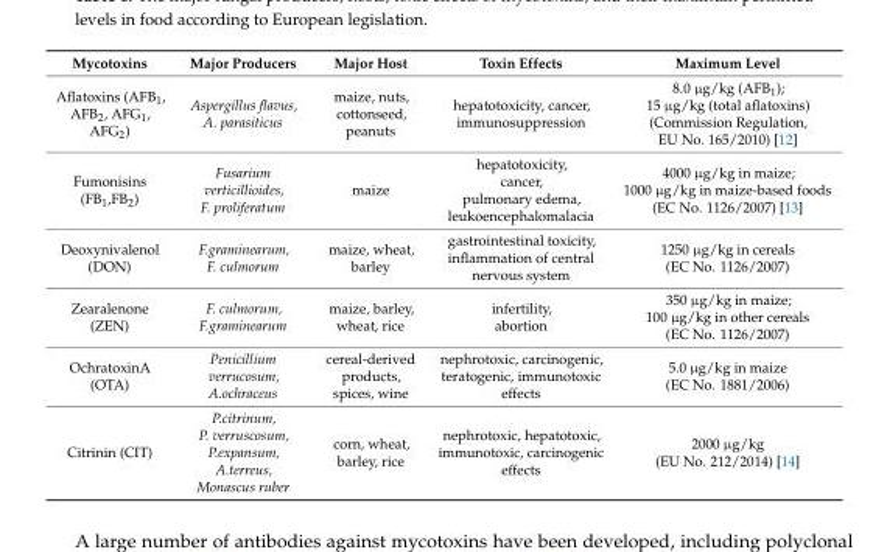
<table><thead><tr><td>Mycotoxins</td><td>Major Producers</td><td>Major Host</td><td>Toxin Effects</td><td>Maximum Level</td></tr></thead><tbody><tr><td>Aflatoxins (AFB<sub>1</sub>, AFB<sub>2</sub>, AFG<sub>1</sub>, AFG<sub>2</sub>)</td><td>Aspergillus flavus, A. parasiticus</td><td>maize, nuts, cottonseed, peanuts</td><td>hepatotoxicity, cancer, immunosuppression</td><td>8.0 µg/kg (AFB<sub>1</sub>); 15 µg/kg (total aflatoxins) (Commission Regulation, EU No. 165/2010) [12]</td></tr><tr><td>Fumonisins (FB<sub>1</sub>,FB<sub>2</sub>)</td><td>Fusarium verticillioides, F. proliferatum</td><td>maize</td><td>hepatotoxicity, cancer, pulmonary edema, leukoencephalomalacia</td><td>4000 µg/kg in maize; 1000 µg/kg in maize-based foods (EC No. 1126/2007) [13]</td></tr><tr><td>Deoxynivalenol (DON)</td><td>F.graminearum, F. culmorum</td><td>maize, wheat, barley</td><td>gastrointestinal toxicity, inflammation of central nervous system</td><td>1250 µg/kg in cereals (EC No. 1126/2007)</td></tr><tr><td>Zearalenone (ZEN)</td><td>F. culmorum, F.graminearum</td><td>maize, barley, wheat, rice</td><td>infertility, abortion</td><td>350 µg/kg in maize; 100 µg/kg in other cereals (EC No. 1126/2007)</td></tr><tr><td>OchratoxinA (OTA)</td><td>Penicillium verrucosum, A.ochraceus</td><td>cereal-derived products, spices, wine</td><td>nephrotoxic, carcinogenic, teratogenic, immunotoxic effects</td><td>5.0 µg/kg in maize (EC No. 1881/2006)</td></tr><tr><td>Citrinin (CIT)</td><td>P.citrinum, P. verruscosum, P.expansum, A.terreus, Monascus ruber</td><td>corn, wheat, barley, rice</td><td>nephrotoxic, hepatotoxic, immunotoxic, carcinogenic effects</td><td>2000 µg/kg (EU No. 212/2014) [14]</td></tr></tbody></table>